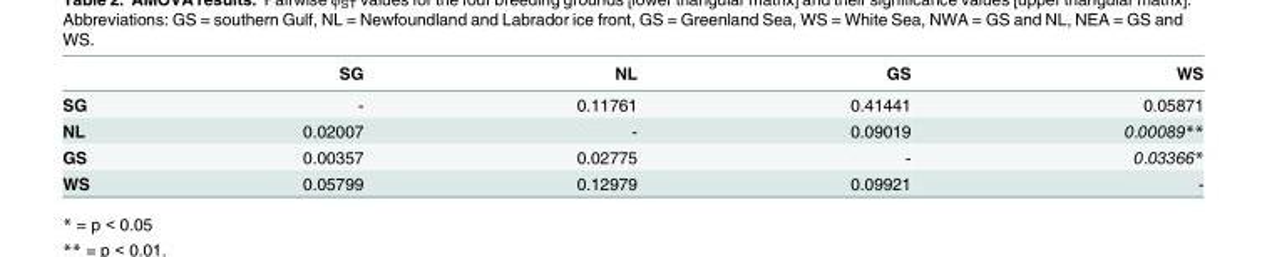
<table><thead><tr><td></td><td>SG</td><td>NL</td><td>GS</td><td>WS</td></tr></thead><tbody><tr><td>SG</td><td>-</td><td>0.11761</td><td>0.41441</td><td>0.05871</td></tr><tr><td>NL</td><td>0.02007</td><td>-</td><td>0.09019</td><td>0.00089**</td></tr><tr><td>GS</td><td>0.00357</td><td>0.02775</td><td>-</td><td>0.03366*</td></tr><tr><td>WS</td><td>0.05799</td><td>0.12979</td><td>0.09921</td><td>-</td></tr></tbody></table>